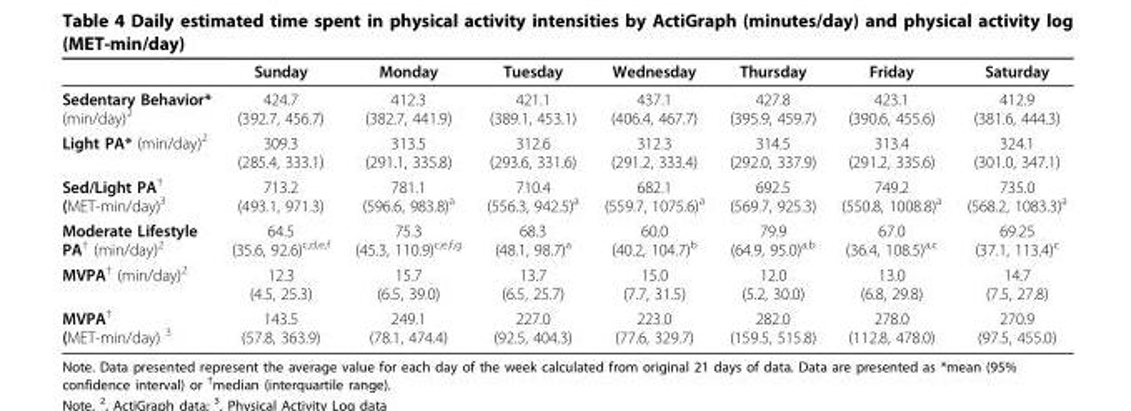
<table><thead><tr><td></td><td>Sunday</td><td>Monday</td><td>Tuesday</td><td>Wednesday</td><td>Thursday</td><td>Friday</td><td>Saturday</td></tr></thead><tbody><tr><td>Sedentary Behavior* (min/day)<sup>2</sup></td><td>424.7 (392.7, 456.7)</td><td>412.3 (382.7, 441.9)</td><td>421.1 (389.1, 453.1)</td><td>437.1 (406.4, 467.7)</td><td>427.8 (395.9, 459.7)</td><td>423.1 (390.6, 455.6)</td><td>412.9 (381.6, 444.3)</td></tr><tr><td>Light PA* (min/day)<sup>2</sup></td><td>309.3 (285.4, 333.1)</td><td>313.5 (291.1, 335.8)</td><td>312.6 (293.6, 331.6)</td><td>312.3 (291.2, 333.4)</td><td>314.5 (292.0, 337.9)</td><td>313.4 (291.2, 335.6)</td><td>324.1 (301.0, 347.1)</td></tr><tr><td>Sed/Light PA<sup>†</sup> (MET-min/day)<sup>3</sup></td><td>713.2 (493.1, 971.3)</td><td>781.1 (596.6, 983.8)<sup>a</sup></td><td>710.4 (556.3, 942.5)<sup>a</sup></td><td>682.1 (559.7, 1075.6)<sup>a</sup></td><td>692.5 (569.7, 925.3)</td><td>749.2 (550.8, 1008.8)<sup>a</sup></td><td>735.0 (568.2, 1083.3)<sup>a</sup></td></tr><tr><td>Moderate Lifestyle PA<sup>†</sup> (min/day)<sup>2</sup></td><td>64.5 (35.6, 92.6)<sup>c,d,e,f</sup></td><td>75.3 (45.3, 110.9)<sup>c,e,f,g</sup></td><td>68.3 (48.1, 98.7)<sup>a</sup></td><td>60.0 (40.2, 104.7)<sup>b</sup></td><td>79.9 (64.9, 95.0)<sup>a,b</sup></td><td>67.0 (36.4, 108.5)<sup>a,c</sup></td><td>69.25 (37.1, 113.4)<sup>c</sup></td></tr><tr><td>MVPA<sup>†</sup> (min/day)<sup>2</sup></td><td>12.3 (4.5, 25.3)</td><td>15.7 (6.5, 39.0)</td><td>13.7 (6.5, 25.7)</td><td>15.0 (7.7, 31.5)</td><td>12.0 (5.2, 30.0)</td><td>13.0 (6.8, 29.8)</td><td>14.7 (7.5, 27.8)</td></tr><tr><td>MVPA<sup>†</sup> (MET-min/day) <sup>3</sup></td><td>143.5 (57.8, 363.9)</td><td>249.1 (78.1, 474.4)</td><td>227.0 (92.5, 404.3)</td><td>223.0 (77.6, 329.7)</td><td>282.0 (159.5, 515.8)</td><td>278.0 (112.8, 478.0)</td><td>270.9 (97.5, 455.0)</td></tr></tbody></table>